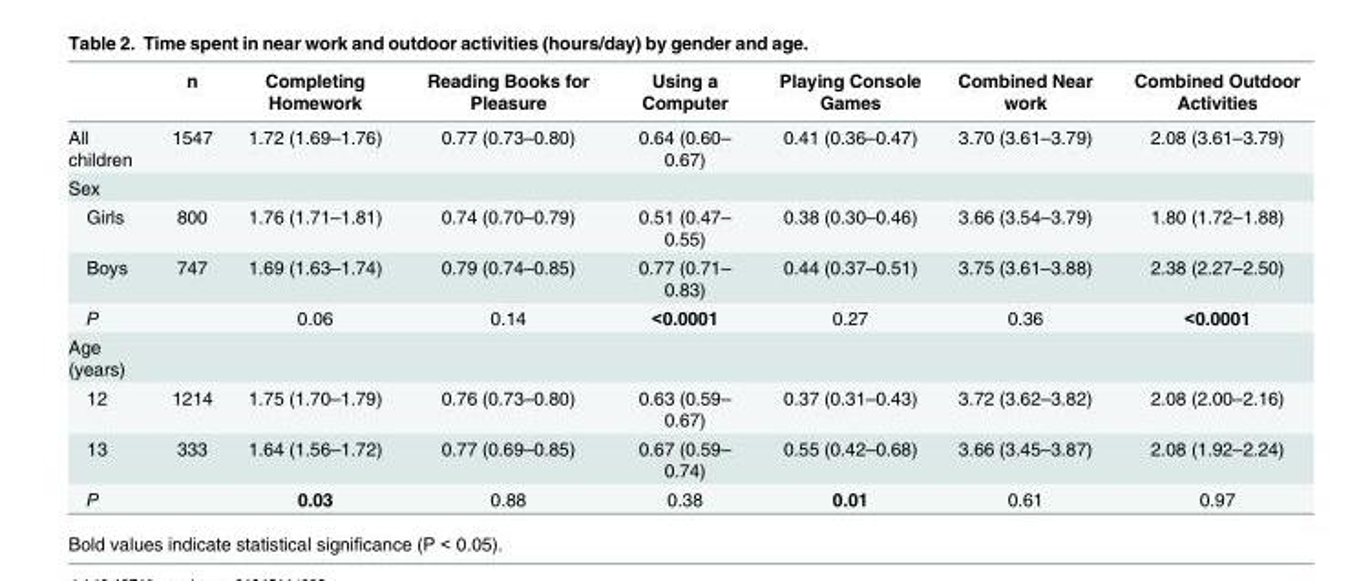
<table><thead><tr><td></td><td>n</td><td>Completing Homework</td><td>Reading Books for Pleasure</td><td>Using a Computer</td><td>Playing Console Games</td><td>Combined Near work</td><td>Combined Outdoor Activities</td></tr></thead><tbody><tr><td>All children</td><td>1547</td><td>1.72 (1.69–1.76)</td><td>0.77 (0.73–0.80)</td><td>0.64 (0.60– 0.67)</td><td>0.41 (0.36–0.47)</td><td>3.70 (3.61–3.79)</td><td>2.08 (3.61–3.79)</td></tr><tr><td colspan="8">Sex</td></tr><tr><td>Girls</td><td>800</td><td>1.76 (1.71–1.81)</td><td>0.74 (0.70–0.79)</td><td>0.51 (0.47– 0.55)</td><td>0.38 (0.30–0.46)</td><td>3.66 (3.54–3.79)</td><td>1.80 (1.72–1.88)</td></tr><tr><td>Boys</td><td>747</td><td>1.69 (1.63–1.74)</td><td>0.79 (0.74–0.85)</td><td>0.77 (0.71– 0.83)</td><td>0.44 (0.37–0.51)</td><td>3.75 (3.61–3.88)</td><td>2.38 (2.27–2.50)</td></tr><tr><td>P</td><td></td><td>0.06</td><td>0.14</td><td>&lt;0.0001</td><td>0.27</td><td>0.36</td><td>&lt;0.0001</td></tr><tr><td colspan="8">Age (years)</td></tr><tr><td>12</td><td>1214</td><td>1.75 (1.70–1.79)</td><td>0.76 (0.73–0.80)</td><td>0.63 (0.59– 0.67)</td><td>0.37 (0.31–0.43)</td><td>3.72 (3.62–3.82)</td><td>2.08 (2.00–2.16)</td></tr><tr><td>13</td><td>333</td><td>1.64 (1.56–1.72)</td><td>0.77 (0.69–0.85)</td><td>0.67 (0.59– 0.74)</td><td>0.55 (0.42–0.68)</td><td>3.66 (3.45–3.87)</td><td>2.08 (1.92–2.24)</td></tr><tr><td>P</td><td></td><td>0.03</td><td>0.88</td><td>0.38</td><td>0.01</td><td>0.61</td><td>0.97</td></tr></tbody></table>